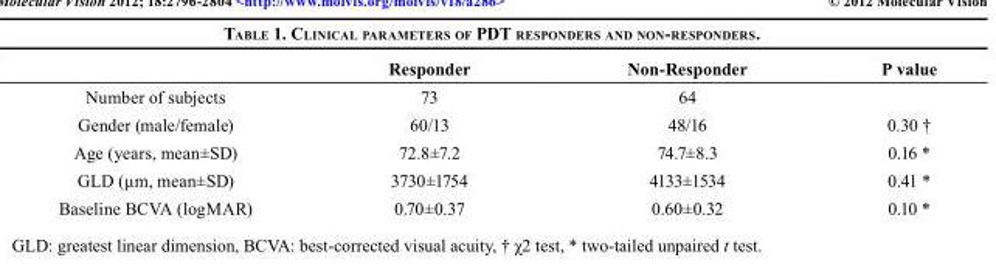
<table><thead><tr><td></td><td>Responder</td><td>Non-Responder</td><td>P value</td></tr></thead><tbody><tr><td>Number of subjects</td><td>73</td><td>64</td><td></td></tr><tr><td>Gender (male/female)</td><td>60/13</td><td>48/16</td><td>0.30 †</td></tr><tr><td>Age (years, mean±SD)</td><td>72.8±7.2</td><td>74.7±8.3</td><td>0.16 *</td></tr><tr><td>GLD (μm, mean±SD)</td><td>3730±1754</td><td>4133±1534</td><td>0.41 *</td></tr><tr><td>Baseline BCVA (logMAR)</td><td>0.70±0.37</td><td>0.60±0.32</td><td>0.10 *</td></tr></tbody></table>